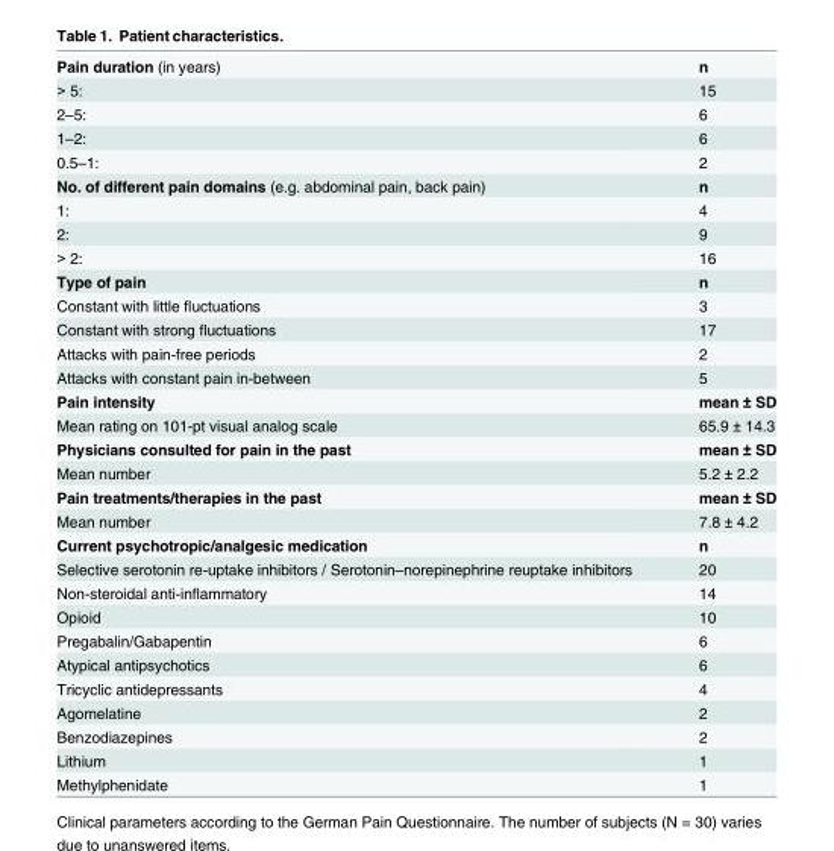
<table><tbody><tr><td>Pain duration (in years)</td><td>n</td></tr><tr><td>&gt; 5:</td><td>15</td></tr><tr><td>2–5:</td><td>6</td></tr><tr><td>1–2:</td><td>6</td></tr><tr><td>0.5–1:</td><td>2</td></tr><tr><td>No. of different pain domains (e.g. abdominal pain, back pain)</td><td>n</td></tr><tr><td>1:</td><td>4</td></tr><tr><td>2:</td><td>9</td></tr><tr><td>&gt; 2:</td><td>16</td></tr><tr><td>Type of pain</td><td>n</td></tr><tr><td>Constant with little fluctuations</td><td>3</td></tr><tr><td>Constant with strong fluctuations</td><td>17</td></tr><tr><td>Attacks with pain-free periods</td><td>2</td></tr><tr><td>Attacks with constant pain in-between</td><td>5</td></tr><tr><td>Pain intensity</td><td>mean ± SD</td></tr><tr><td>Mean rating on 101-pt visual analog scale</td><td>65.9 ± 14.3</td></tr><tr><td>Physicians consulted for pain in the past</td><td>mean ± SD</td></tr><tr><td>Mean number</td><td>5.2 ± 2.2</td></tr><tr><td>Pain treatments/therapies in the past</td><td>mean ± SD</td></tr><tr><td>Mean number</td><td>7.8 ± 4.2</td></tr><tr><td>Current psychotropic/analgesic medication</td><td>n</td></tr><tr><td>Selective serotonin re-uptake inhibitors / Serotonin–norepinephrine reuptake inhibitors</td><td>20</td></tr><tr><td>Non-steroidal anti-inflammatory</td><td>14</td></tr><tr><td>Opioid</td><td>10</td></tr><tr><td>Pregabalin/Gabapentin</td><td>6</td></tr><tr><td>Atypical antipsychotics</td><td>6</td></tr><tr><td>Tricyclic antidepressants</td><td>4</td></tr><tr><td>Agomelatine</td><td>2</td></tr><tr><td>Benzodiazepines</td><td>2</td></tr><tr><td>Lithium</td><td>1</td></tr><tr><td>Methylphenidate</td><td>1</td></tr></tbody></table>